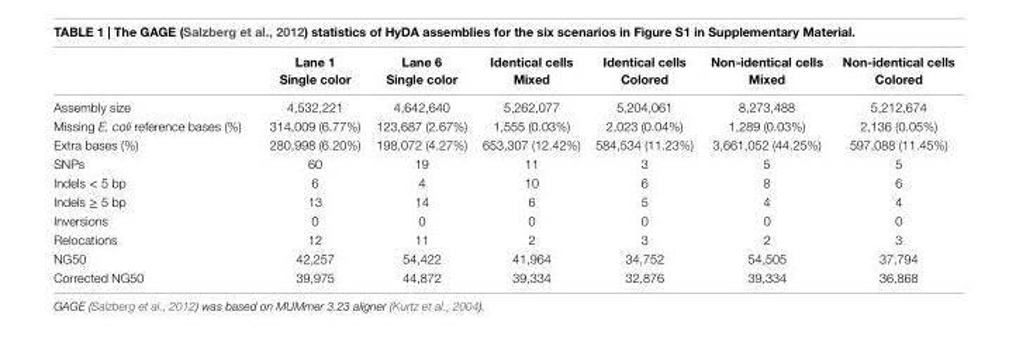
<table><thead><tr><td></td><td>Lane 1 single color</td><td>Lane 6 single color</td><td>Identical cells Mixed</td><td>Identical cells Colored</td><td>Non-identical cells Mixed</td><td>Non-identical cells Colored</td></tr></thead><tbody><tr><td>Assembly size</td><td>4,532,221</td><td>4,642,640</td><td>5,262,077</td><td>5,204,061</td><td>8,273,488</td><td>5,212,674</td></tr><tr><td>Missing E. coli reference bases (%)</td><td>314,009 (6.77%)</td><td>123,687 (2.67%)</td><td>1,555 (0.03%)</td><td>2,023 (0.04%)</td><td>1,289 (0.03%)</td><td>2,136 (0.05%)</td></tr><tr><td>Extra bases (%)</td><td>280,998 (6.20%)</td><td>198,072 (4.27%)</td><td>653,307 (12.42%)</td><td>584,534 (11.23%)</td><td>3,661,052 (44.25%)</td><td>597,088 (11.45%)</td></tr><tr><td>SNPs</td><td>60</td><td>19</td><td>11</td><td>3</td><td>5</td><td>5</td></tr><tr><td>Indels &lt; 5 bp</td><td>6</td><td>4</td><td>10</td><td>6</td><td>8</td><td>6</td></tr><tr><td>Indels ≥ 5 bp</td><td>13</td><td>14</td><td>6</td><td>5</td><td>4</td><td>4</td></tr><tr><td>Inversions</td><td>0</td><td>0</td><td>0</td><td>0</td><td>0</td><td>0</td></tr><tr><td>Relocations</td><td>12</td><td>11</td><td>2</td><td>3</td><td>2</td><td>3</td></tr><tr><td>NG50</td><td>42,257</td><td>54,422</td><td>41,964</td><td>34,752</td><td>54,505</td><td>37,794</td></tr><tr><td>Corrected NG50</td><td>39,975</td><td>44,872</td><td>39,334</td><td>32,876</td><td>39,334</td><td>36,868</td></tr></tbody></table>